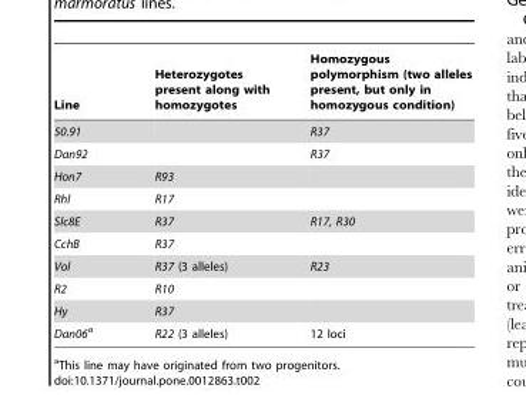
<table><thead><tr><td>Line</td><td>Heterozygotes present along with homozygotes</td><td>Homozygous polymorphism (two alleles present, but only in homozygous condition)</td></tr></thead><tbody><tr><td>50.91</td><td></td><td>R37</td></tr><tr><td>Dan92</td><td></td><td>R37</td></tr><tr><td>Hon7</td><td>R93</td><td></td></tr><tr><td>Rhl</td><td>R17</td><td></td></tr><tr><td>Slc8E</td><td>R37</td><td>R17, R30</td></tr><tr><td>CchB</td><td>R37</td><td></td></tr><tr><td>Vol</td><td>R37 (3 alleles)</td><td>R23</td></tr><tr><td>R2</td><td>R10</td><td></td></tr><tr><td>Hy</td><td>R37</td><td></td></tr><tr><td>Dan06a</td><td>R22 (3 alleles)</td><td>12 loci</td></tr></tbody></table>